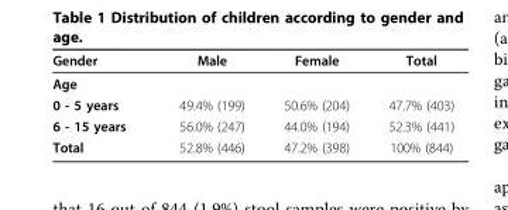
<table><thead><tr><td>Gender</td><td>Male</td><td>Female</td><td>Total</td></tr></thead><tbody><tr><td colspan="4">Age</td></tr><tr><td>0 - 5 years</td><td>49.4% (199)</td><td>50.6% (204)</td><td>47.7% (403)</td></tr><tr><td>6 - 15 years</td><td>56.0% (247)</td><td>44.0% (194)</td><td>52.3% (441)</td></tr><tr><td>Total</td><td>52.8% (446)</td><td>47.2% (398)</td><td>100% (844)</td></tr></tbody></table>